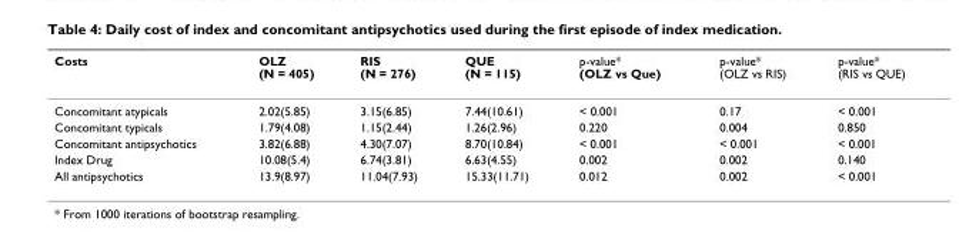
<table><thead><tr><td>Costs</td><td>OLZ (N = 405)</td><td>RIS (N = 276)</td><td>QUE (N = 115)</td><td>p-value* (OLZ vs Que)</td><td>p-value* (OLZ vs RIS)</td><td>p-value* (RIS vs QUE)</td></tr></thead><tbody><tr><td>Concomitant atypicals</td><td>2.02(5.85)</td><td>3.15(6.85)</td><td>7.44(10.61)</td><td>&lt; 0.001</td><td>0.17</td><td>&lt; 0.001</td></tr><tr><td>Concomitant typicals</td><td>1.79(4.08)</td><td>1.15(2.44)</td><td>1.26(2.96)</td><td>0.220</td><td>0.004</td><td>0.850</td></tr><tr><td>Concomitant antipsychotics</td><td>3.82(6.88)</td><td>4.30(7.07)</td><td>8.70(10.84)</td><td>&lt; 0.001</td><td>&lt; 0.001</td><td>&lt; 0.001</td></tr><tr><td>Index Drug</td><td>10.08(5.4)</td><td>6.74(3.81)</td><td>6.63(4.55)</td><td>0.002</td><td>0.002</td><td>0.140</td></tr><tr><td>All antipsychotics</td><td>13.9(8.97)</td><td>11.04(7.93)</td><td>15.33(11.71)</td><td>0.012</td><td>0.002</td><td>&lt; 0.001</td></tr></tbody></table>